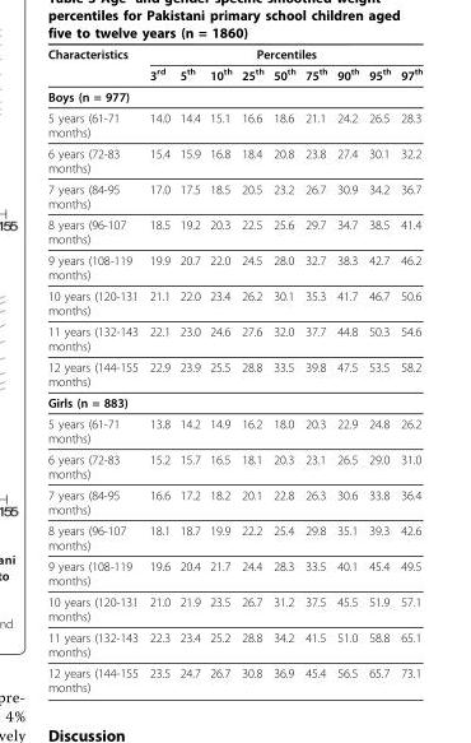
<table><thead><tr><td rowspan="2">Characteristics</td><td colspan="9">Percentiles</td></tr><tr><td>3rd</td><td>5th</td><td>10th</td><td>25th</td><td>50th</td><td>75th</td><td>90th</td><td>95th</td><td>97th</td></tr></thead><tbody><tr><td colspan="10">Boys (n = 977)</td></tr><tr><td>5 years (61-71 months)</td><td>14.0</td><td>14.4</td><td>15.1</td><td>16.6</td><td>18.6</td><td>21.1</td><td>24.2</td><td>26.5</td><td>28.3</td></tr><tr><td>6 years (72-83 months)</td><td>15.4</td><td>15.9</td><td>16.8</td><td>18.4</td><td>20.8</td><td>23.8</td><td>27.4</td><td>30.1</td><td>32.2</td></tr><tr><td>7 years (84-95 months)</td><td>17.0</td><td>17.5</td><td>18.5</td><td>20.5</td><td>23.2</td><td>26.7</td><td>30.9</td><td>34.2</td><td>36.7</td></tr><tr><td>8 years (96-107 months)</td><td>18.5</td><td>19.2</td><td>20.3</td><td>22.5</td><td>25.6</td><td>29.7</td><td>34.7</td><td>38.5</td><td>41.4</td></tr><tr><td>9 years (108-119 months)</td><td>19.9</td><td>20.7</td><td>22.0</td><td>24.5</td><td>28.0</td><td>32.7</td><td>38.3</td><td>42.7</td><td>46.2</td></tr><tr><td>10 years (120-131 months)</td><td>21.1</td><td>22.0</td><td>23.4</td><td>26.2</td><td>30.1</td><td>35.3</td><td>41.7</td><td>46.7</td><td>50.6</td></tr><tr><td>11 years (132-143 months)</td><td>22.1</td><td>23.0</td><td>24.6</td><td>27.6</td><td>32.0</td><td>37.7</td><td>44.8</td><td>50.3</td><td>54.6</td></tr><tr><td>12 years (144-155 months)</td><td>22.9</td><td>23.9</td><td>25.5</td><td>28.8</td><td>33.5</td><td>39.8</td><td>47.5</td><td>53.5</td><td>58.2</td></tr><tr><td colspan="10">Girls (n = 883)</td></tr><tr><td>5 years (61-71 months)</td><td>13.8</td><td>14.2</td><td>14.9</td><td>16.2</td><td>18.0</td><td>20.3</td><td>22.9</td><td>24.8</td><td>26.2</td></tr><tr><td>6 years (72-83 months)</td><td>15.2</td><td>15.7</td><td>16.5</td><td>18.1</td><td>20.3</td><td>23.1</td><td>26.5</td><td>29.0</td><td>31.0</td></tr><tr><td>7 years (84-95 months)</td><td>16.6</td><td>17.2</td><td>18.2</td><td>20.1</td><td>22.8</td><td>26.3</td><td>30.6</td><td>33.8</td><td>36.4</td></tr><tr><td>8 years (96-107 months)</td><td>18.1</td><td>18.7</td><td>19.9</td><td>22.2</td><td>25.4</td><td>29.8</td><td>35.1</td><td>39.3</td><td>42.6</td></tr><tr><td>9 years (108-119 months)</td><td>19.6</td><td>20.4</td><td>21.7</td><td>24.4</td><td>28.3</td><td>33.5</td><td>40.1</td><td>45.4</td><td>49.5</td></tr><tr><td>10 years (120-131 months)</td><td>21.0</td><td>21.9</td><td>23.5</td><td>26.7</td><td>31.2</td><td>37.5</td><td>45.5</td><td>51.9</td><td>57.1</td></tr><tr><td>11 years (132-143 months)</td><td>22.3</td><td>23.4</td><td>25.2</td><td>28.8</td><td>34.2</td><td>41.5</td><td>51.0</td><td>58.8</td><td>65.1</td></tr><tr><td>12 years (144-155 months)</td><td>23.5</td><td>24.7</td><td>26.7</td><td>30.8</td><td>36.9</td><td>45.4</td><td>56.5</td><td>65.7</td><td>73.1</td></tr></tbody></table>